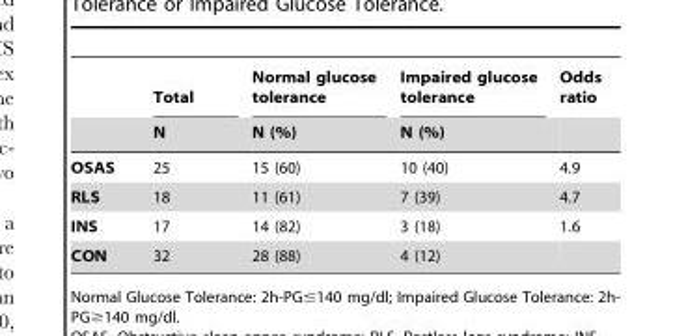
<table><thead><tr><td rowspan="2"></td><td rowspan="2">Total N</td><td rowspan="2">Normal glucose tolerance N (%)</td><td rowspan="2">Impaired glucose tolerance N (%)</td><td rowspan="2">Odds ratio</td></tr><tr></tr></thead><tbody><tr><td>OSAS</td><td>25</td><td>15 (60)</td><td>10 (40)</td><td>4.9</td></tr><tr><td>RLS</td><td>18</td><td>11 (61)</td><td>7 (39)</td><td>4.7</td></tr><tr><td>INS</td><td>17</td><td>14 (82)</td><td>3 (18)</td><td>1.6</td></tr><tr><td>CON</td><td>32</td><td>28 (88)</td><td>4 (12)</td><td></td></tr></tbody></table>